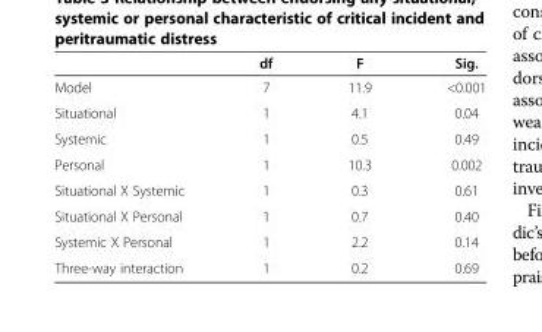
<table><thead><tr><td></td><td>df</td><td>F</td><td>Sig.</td></tr></thead><tbody><tr><td>Model</td><td>7</td><td>11.9</td><td>&lt;0.001</td></tr><tr><td>Situational</td><td>1</td><td>4.1</td><td>0.04</td></tr><tr><td>Systemic</td><td>1</td><td>0.5</td><td>0.49</td></tr><tr><td>Personal</td><td>1</td><td>10.3</td><td>0.002</td></tr><tr><td>Situational X Systemic</td><td>1</td><td>0.3</td><td>0.61</td></tr><tr><td>Situational X Personal</td><td>1</td><td>0.7</td><td>0.40</td></tr><tr><td>Systemic X Personal</td><td>1</td><td>2.2</td><td>0.14</td></tr><tr><td>Three-way interaction</td><td>1</td><td>0.2</td><td>0.69</td></tr></tbody></table>